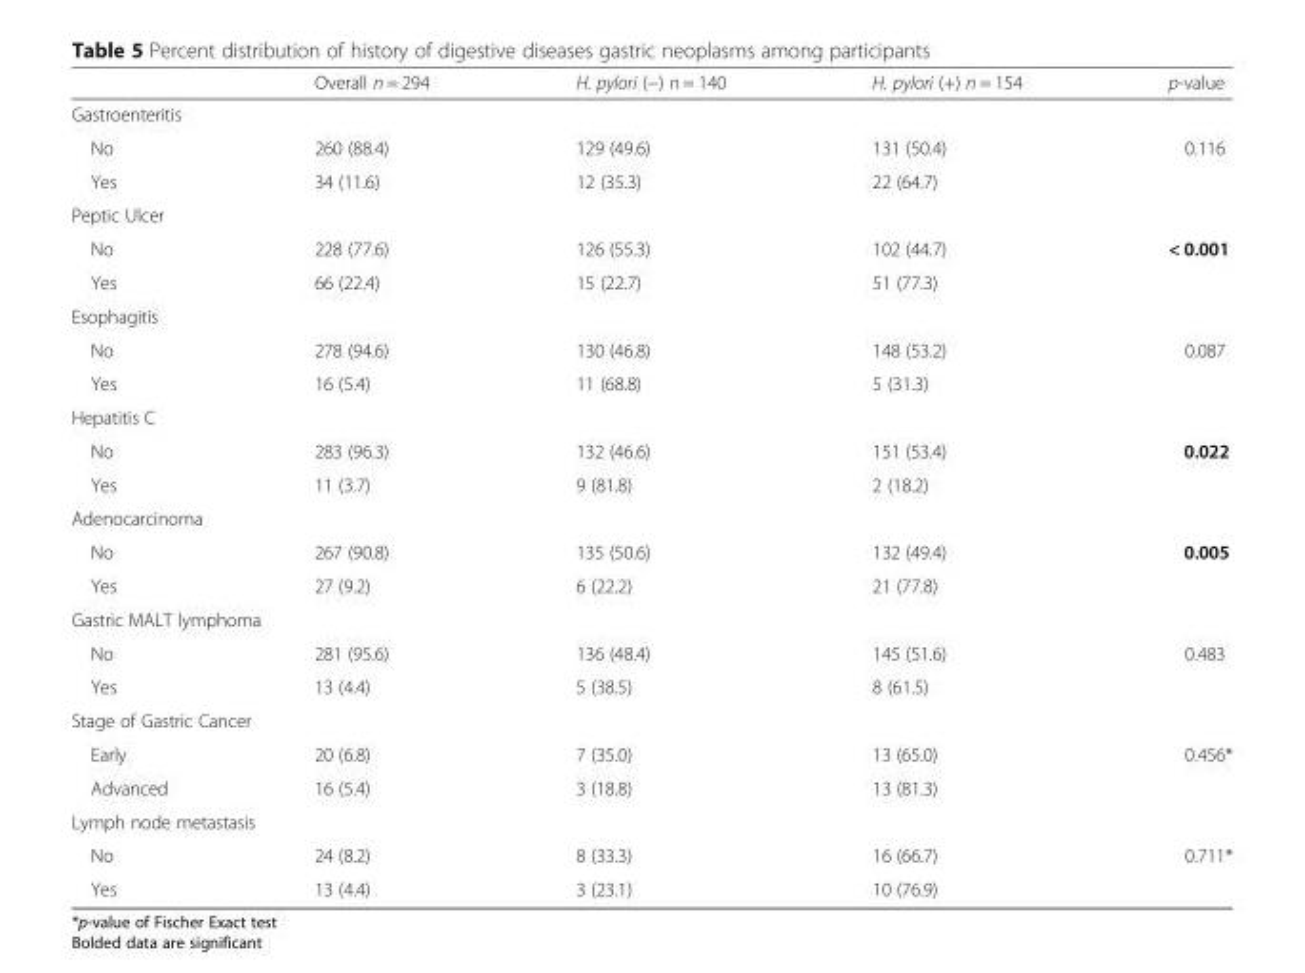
<table><thead><tr><td></td><td>Overall n = 294</td><td>H. pylori (−) n = 140</td><td>H. pylori (+) n = 154</td><td>p-value</td></tr></thead><tbody><tr><td colspan="5">Gastroenteritis</td></tr><tr><td>No</td><td>260 (88.4)</td><td>129 (49.6)</td><td>131 (50.4)</td><td>0.116</td></tr><tr><td>Yes</td><td>34 (11.6)</td><td>12 (35.3)</td><td>22 (64.7)</td><td></td></tr><tr><td colspan="5">Peptic Ulcer</td></tr><tr><td>No</td><td>228 (77.6)</td><td>126 (55.3)</td><td>102 (44.7)</td><td>&lt; 0.001</td></tr><tr><td>Yes</td><td>66 (22.4)</td><td>15 (22.7)</td><td>51 (77.3)</td><td></td></tr><tr><td colspan="5">Esophagitis</td></tr><tr><td>No</td><td>278 (94.6)</td><td>130 (46.8)</td><td>148 (53.2)</td><td>0.087</td></tr><tr><td>Yes</td><td>16 (5.4)</td><td>11 (68.8)</td><td>5 (31.3)</td><td></td></tr><tr><td colspan="5">Hepatitis C</td></tr><tr><td>No</td><td>283 (96.3)</td><td>132 (46.6)</td><td>151 (53.4)</td><td>0.022</td></tr><tr><td>Yes</td><td>11 (3.7)</td><td>9 (81.8)</td><td>2 (18.2)</td><td></td></tr><tr><td colspan="5">Adenocarcinoma</td></tr><tr><td>No</td><td>267 (90.8)</td><td>135 (50.6)</td><td>132 (49.4)</td><td>0.005</td></tr><tr><td>Yes</td><td>27 (9.2)</td><td>6 (22.2)</td><td>21 (77.8)</td><td></td></tr><tr><td colspan="5">Gastric MALT lymphoma</td></tr><tr><td>No</td><td>281 (95.6)</td><td>136 (48.4)</td><td>145 (51.6)</td><td>0.483</td></tr><tr><td>Yes</td><td>13 (4.4)</td><td>5 (38.5)</td><td>8 (61.5)</td><td></td></tr><tr><td colspan="5">Stage of Gastric Cancer</td></tr><tr><td>Early</td><td>20 (6.8)</td><td>7 (35.0)</td><td>13 (65.0)</td><td>0.456*</td></tr><tr><td>Advanced</td><td>16 (5.4)</td><td>3 (18.8)</td><td>13 (81.3)</td><td></td></tr><tr><td colspan="5">Lymph node metastasis</td></tr><tr><td>No</td><td>24 (8.2)</td><td>8 (33.3)</td><td>16 (66.7)</td><td>0.711*</td></tr><tr><td>Yes</td><td>13 (4.4)</td><td>3 (23.1)</td><td>10 (76.9)</td><td></td></tr></tbody></table>